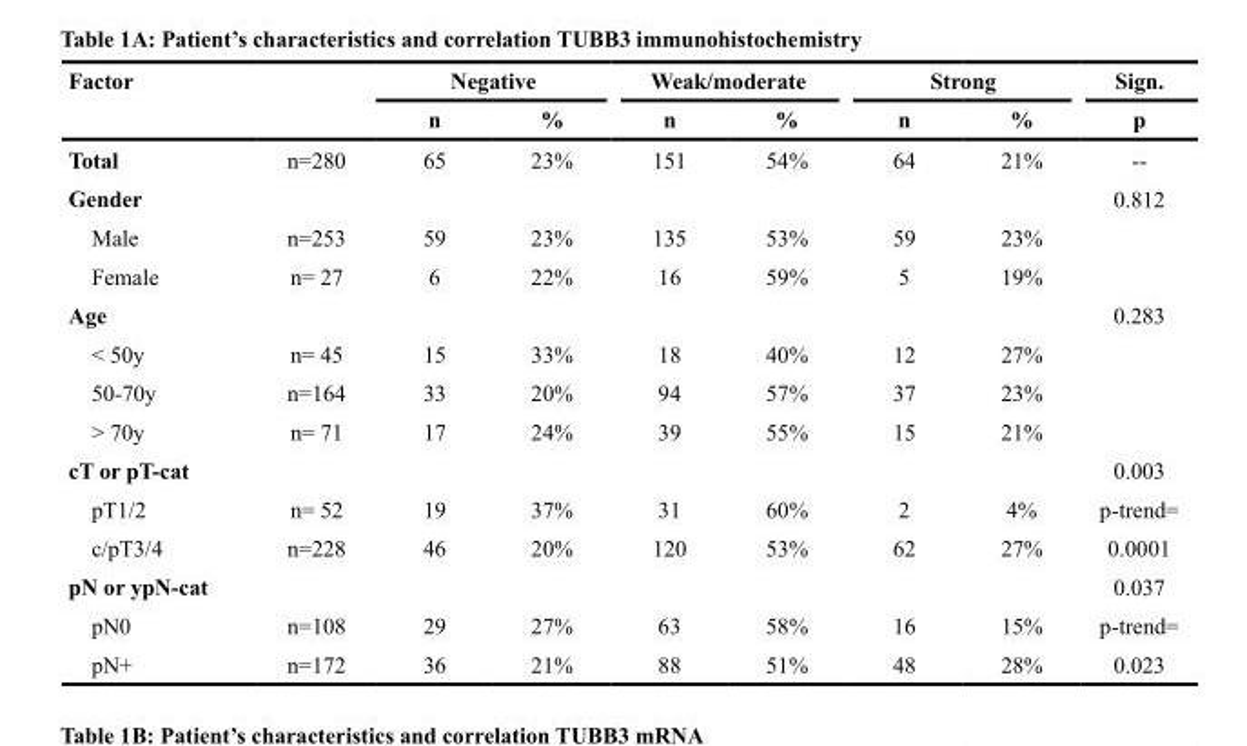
<table><thead><tr><td rowspan="2" colspan="2">Factor</td><td colspan="2">Negative</td><td colspan="2">Weak/moderate</td><td colspan="2">Strong</td><td rowspan="3">Sign. p --</td></tr><tr><td rowspan="2">n 65</td><td rowspan="2">% 23%</td><td rowspan="2">n 151</td><td rowspan="2">% 54%</td><td rowspan="2">n 64</td><td rowspan="2">% 21%</td></tr><tr><td>Total</td><td>n=280</td></tr></thead><tbody><tr><td>Gender</td><td></td><td></td><td></td><td></td><td></td><td></td><td></td><td>0.812</td></tr><tr><td>Male</td><td>n=253</td><td>59</td><td>23%</td><td>135</td><td>53%</td><td>59</td><td>23%</td><td></td></tr><tr><td>Female</td><td>n= 27</td><td>6</td><td>22%</td><td>16</td><td>59%</td><td>5</td><td>19%</td><td></td></tr><tr><td>Age</td><td></td><td></td><td></td><td></td><td></td><td></td><td></td><td>0.283</td></tr><tr><td>&lt; 50y</td><td>n= 45</td><td>15</td><td>33%</td><td>18</td><td>40%</td><td>12</td><td>27%</td><td></td></tr><tr><td>50-70y</td><td>n=164</td><td>33</td><td>20%</td><td>94</td><td>57%</td><td>37</td><td>23%</td><td></td></tr><tr><td>&gt; 70y</td><td>n= 71</td><td>17</td><td>24%</td><td>39</td><td>55%</td><td>15</td><td>21%</td><td></td></tr><tr><td>cT or pT-cat</td><td></td><td></td><td></td><td></td><td></td><td></td><td></td><td>0.003</td></tr><tr><td>pT1/2</td><td>n= 52</td><td>19</td><td>37%</td><td>31</td><td>60%</td><td>2</td><td>4%</td><td>p-trend=</td></tr><tr><td>c/pT3/4</td><td>n=228</td><td>46</td><td>20%</td><td>120</td><td>53%</td><td>62</td><td>27%</td><td>0.0001</td></tr><tr><td>pN or ypN-cat</td><td></td><td></td><td></td><td></td><td></td><td></td><td></td><td>0.037</td></tr><tr><td>pN0</td><td>n=108</td><td>29</td><td>27%</td><td>63</td><td>58%</td><td>16</td><td>15%</td><td>p-trend=</td></tr><tr><td>pN+</td><td>n=172</td><td>36</td><td>21%</td><td>88</td><td>51%</td><td>48</td><td>28%</td><td>0.023</td></tr></tbody></table>